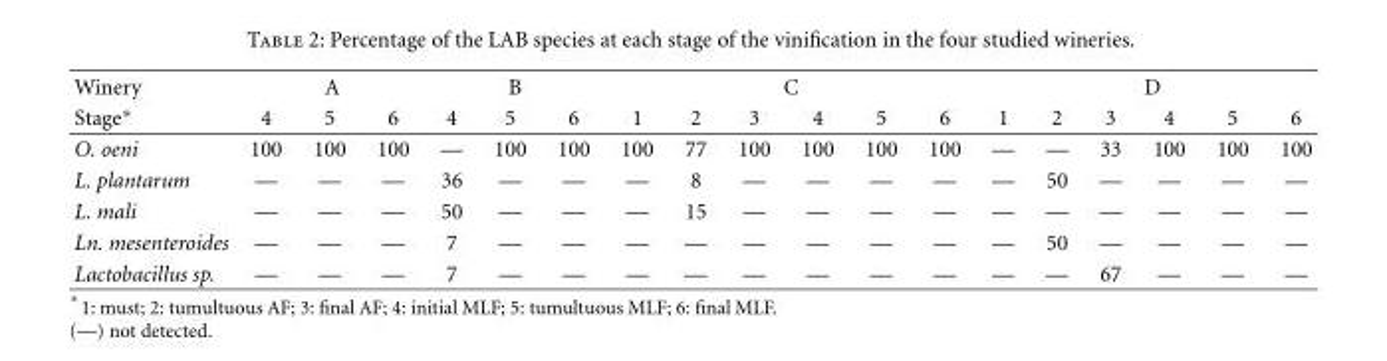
<table><thead><tr><td rowspan="2">Winery Stage∗</td><td colspan="3">A</td><td colspan="3">B</td><td colspan="6">C</td><td colspan="6">D</td></tr><tr><td>4</td><td>5</td><td>6</td><td>4</td><td>5</td><td>6</td><td>1</td><td>2</td><td>3</td><td>4</td><td>5</td><td>6</td><td>1</td><td>2</td><td>3</td><td>4</td><td>5</td><td>6</td></tr></thead><tbody><tr><td>O. oeni</td><td>100</td><td>100</td><td>100</td><td>—</td><td>100</td><td>100</td><td>100</td><td>77</td><td>100</td><td>100</td><td>100</td><td>100</td><td>—</td><td>—</td><td>33</td><td>100</td><td>100</td><td>100</td></tr><tr><td>L. plantarum</td><td>—</td><td>—</td><td>—</td><td>36</td><td>—</td><td>—</td><td>—</td><td>8</td><td>—</td><td>—</td><td>—</td><td>—</td><td>—</td><td>50</td><td>—</td><td>—</td><td>—</td><td>—</td></tr><tr><td>L. mali</td><td>—</td><td>—</td><td>—</td><td>50</td><td>—</td><td>—</td><td>—</td><td>15</td><td>—</td><td>—</td><td>—</td><td>—</td><td>—</td><td>—</td><td>—</td><td>—</td><td>—</td><td>—</td></tr><tr><td>Ln. mesenteroides</td><td>—</td><td>—</td><td>—</td><td>7</td><td>—</td><td>—</td><td>—</td><td>—</td><td>—</td><td>—</td><td>—</td><td>—</td><td>—</td><td>50</td><td>—</td><td>—</td><td>—</td><td>—</td></tr><tr><td>Lactobacillus sp.</td><td>—</td><td>—</td><td>—</td><td>7</td><td>—</td><td>—</td><td>—</td><td>—</td><td>—</td><td>—</td><td>—</td><td>—</td><td>—</td><td>—</td><td>67</td><td>—</td><td>—</td><td>—</td></tr></tbody></table>